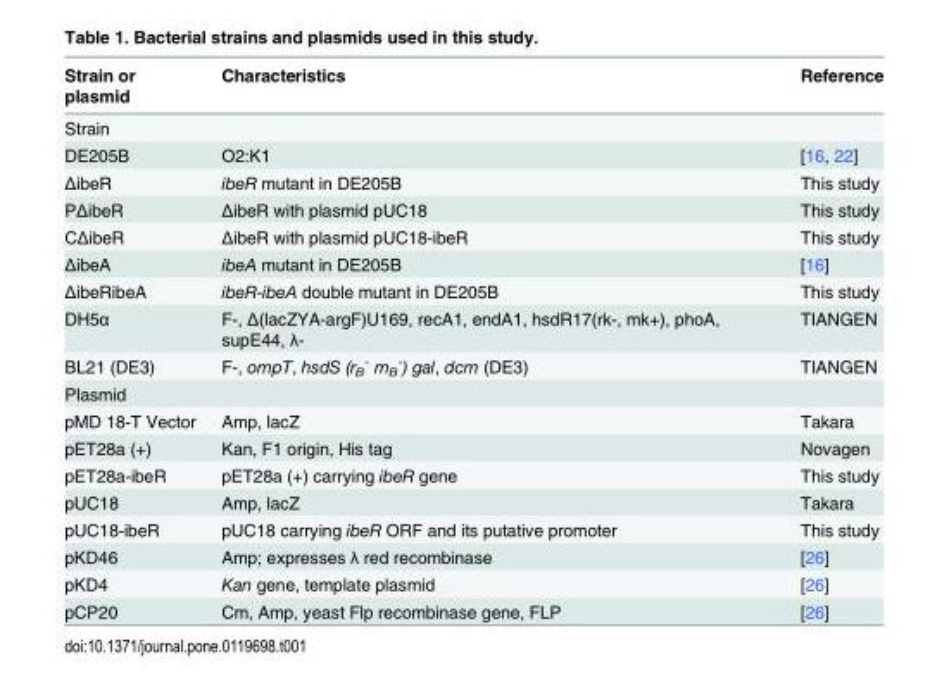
<table><thead><tr><td>Strain or plasmid</td><td>Characteristics</td><td>Reference</td></tr></thead><tbody><tr><td colspan="3">Strain</td></tr><tr><td>DE205B</td><td>O2:K1</td><td>[16, 22]</td></tr><tr><td>ΔibeR</td><td>ibeR mutant in DE205B</td><td>This study</td></tr><tr><td>PΔibeR</td><td>ΔibeR with plasmid pUC18</td><td>This study</td></tr><tr><td>CΔibeR</td><td>ΔibeR with plasmid pUC18-ibeR</td><td>This study</td></tr><tr><td>ΔibeA</td><td>ibeA mutant in DE205B</td><td>[16]</td></tr><tr><td>ΔibeRibeA</td><td>ibeR-ibeA double mutant in DE205B</td><td>This study</td></tr><tr><td>DH5α</td><td>F-, Δ(lacZYA-argF)U169, recA1, endA1, hsdR17(rk-, mk+), phoA, supE44, λ-</td><td>TIANGEN</td></tr><tr><td>BL21 (DE3)</td><td>F-, ompT, hsdS (r<sub>B</sub> <sup>-</sup> m<sub>B</sub> <sup>-</sup>) gal, dcm (DE3)</td><td>TIANGEN</td></tr><tr><td colspan="3">Plasmid</td></tr><tr><td>pMD 18-T Vector</td><td>Amp, lacZ</td><td>Takara</td></tr><tr><td>pET28a (+)</td><td>Kan, F1 origin, His tag</td><td>Novagen</td></tr><tr><td>pET28a-ibeR</td><td>pET28a (+) carrying ibeR gene</td><td>This study</td></tr><tr><td>pUC18</td><td>Amp, lacZ</td><td>Takara</td></tr><tr><td>pUC18-ibeR</td><td>pUC18 carrying ibeR ORF and its putative promoter</td><td>This study</td></tr><tr><td>pKD46</td><td>Amp; expresses λ red recombinase</td><td>[26]</td></tr><tr><td>pKD4</td><td>Kan gene, template plasmid</td><td>[26]</td></tr><tr><td>pCP20</td><td>Cm, Amp, yeast Flp recombinase gene, FLP</td><td>[26]</td></tr></tbody></table>